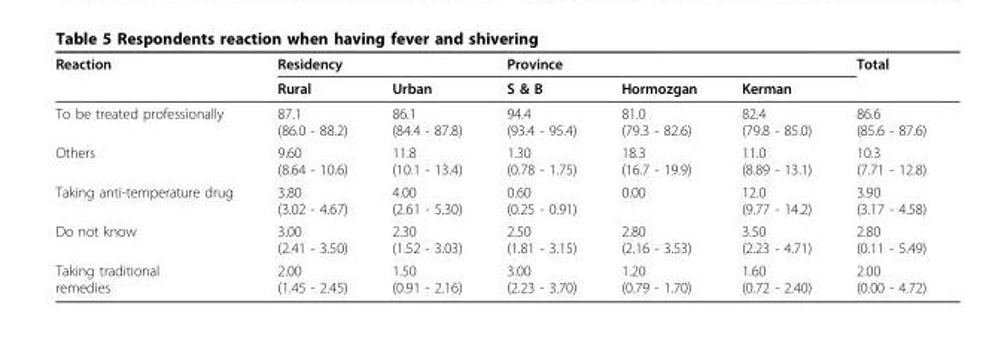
<table><thead><tr><td rowspan="2">Reaction</td><td colspan="2">Residency</td><td colspan="3">Province</td><td rowspan="2">Total</td></tr><tr><td>Rural</td><td>Urban</td><td>S &amp; B</td><td>Hormozgan</td><td>Kerman</td></tr></thead><tbody><tr><td>To be treated professionally</td><td>87.1 (86.0 - 88.2)</td><td>86.1 (84.4 - 87.8)</td><td>94.4 (93.4 - 95.4)</td><td>81.0 (79.3 - 82.6)</td><td>82.4 (79.8 - 85.0)</td><td>86.6 (85.6 - 87.6)</td></tr><tr><td>Others</td><td>9.60 (8.64 - 10.6)</td><td>11.8 (10.1 - 13.4)</td><td>1.30 (0.78 - 1.75)</td><td>18.3 (16.7 - 19.9)</td><td>11.0 (8.89 - 13.1)</td><td>10.3 (7.71 - 12.8)</td></tr><tr><td>Taking anti-temperature drug</td><td>3.80 (3.02 - 4.67)</td><td>4.00 (2.61 - 5.30)</td><td>0.60 (0.25 - 0.91)</td><td>0.00</td><td>12.0 (9.77 - 14.2)</td><td>3.90 (3.17 - 4.58)</td></tr><tr><td>Do not know</td><td>3.00 (2.41 - 3.50)</td><td>2.30 (1.52 - 3.03)</td><td>2.50 (1.81 - 3.15)</td><td>2.80 (2.16 - 3.53)</td><td>3.50 (2.23 - 4.71)</td><td>2.80 (0.11 - 5.49)</td></tr><tr><td>Taking traditional remedies</td><td>2.00 (1.45 - 2.45)</td><td>1.50 (0.91 - 2.16)</td><td>3.00 (2.23 - 3.70)</td><td>1.20 (0.79 - 1.70)</td><td>1.60 (0.72 - 2.40)</td><td>2.00 (0.00 - 4.72)</td></tr></tbody></table>